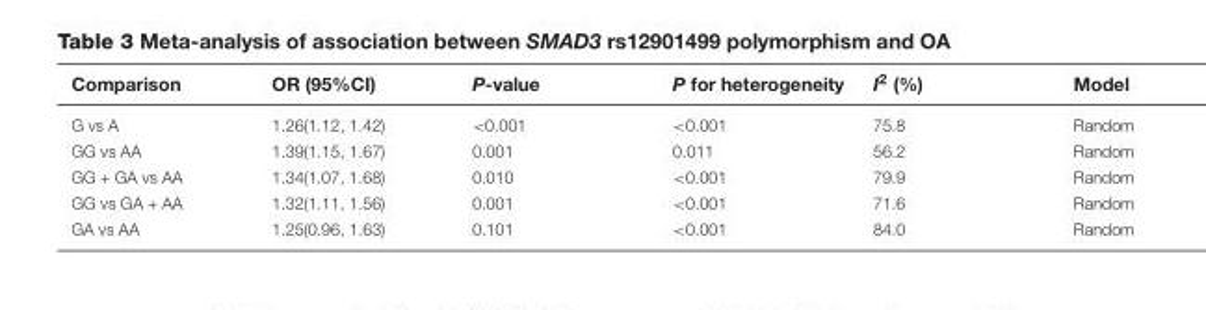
<table><thead><tr><td>Comparison</td><td>OR (95%CI)</td><td>P-value</td><td>P for heterogeneity</td><td>I<sup>2</sup> (%)</td><td>Model</td></tr></thead><tbody><tr><td>G vs A</td><td>1.26(1.12, 1.42)</td><td>&lt;0.001</td><td>&lt;0.001</td><td>75.8</td><td>Random</td></tr><tr><td>GG vs AA</td><td>1.39(1.15, 1.67)</td><td>0.001</td><td>0.011</td><td>56.2</td><td>Random</td></tr><tr><td>GG + GA vs AA</td><td>1.34(1.07, 1.68)</td><td>0.010</td><td>&lt;0.001</td><td>79.9</td><td>Random</td></tr><tr><td>GG vs GA + AA</td><td>1.32(1.11, 1.56)</td><td>0.001</td><td>&lt;0.001</td><td>71.6</td><td>Random</td></tr><tr><td>GA vs AA</td><td>1.25(0.96, 1.63)</td><td>0.101</td><td>&lt;0.001</td><td>84.0</td><td>Random</td></tr></tbody></table>